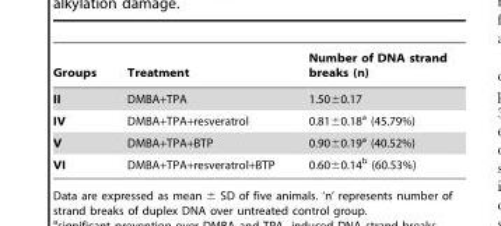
<table><thead><tr><td>Groups</td><td>Treatment</td><td>Number of DNA strand breaks (n)</td></tr></thead><tbody><tr><td>II</td><td>DMBA+TPA</td><td>1.50±0.17</td></tr><tr><td>IV</td><td>DMBA+TPA+resveratrol</td><td>0.81±0.18a (45.79%)</td></tr><tr><td>V</td><td>DMBA+TPA+BTP</td><td>0.90±0.19a (40.52%)</td></tr><tr><td>VI</td><td>DMBA+TPA+resveratrol+BTP</td><td>0.60±0.14b (60.53%)</td></tr></tbody></table>